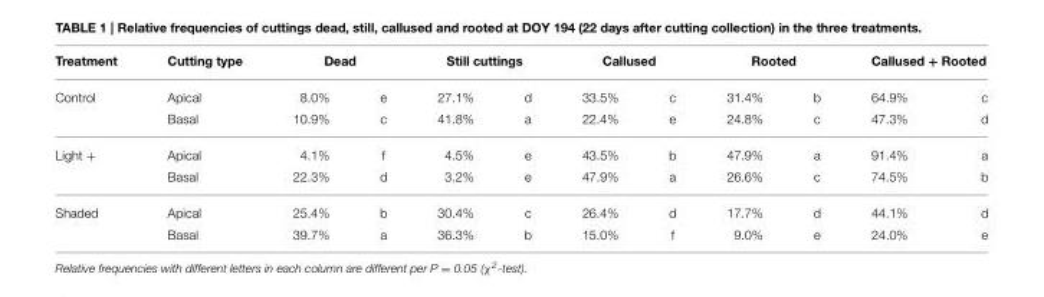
<table><thead><tr><td rowspan="2">Treatment Control</td><td rowspan="2">Cutting type Apical</td><td colspan="2">Dead</td><td colspan="2">Still cuttings</td><td colspan="2">Callused</td><td colspan="2">Rooted</td><td colspan="2">Callused + Rooted</td></tr><tr><td>8.0%</td><td>e</td><td>27.1%</td><td>d</td><td>33.5%</td><td>c</td><td>31.4%</td><td>b</td><td>64.9%</td><td>c</td></tr></thead><tbody><tr><td></td><td>Basal</td><td>10.9%</td><td>c</td><td>41.8%</td><td>a</td><td>22.4%</td><td>e</td><td>24.8%</td><td>c</td><td>47.3%</td><td>d</td></tr><tr><td rowspan="2">Light +</td><td>Apical</td><td>4.1%</td><td>f</td><td>4.5%</td><td>e</td><td>43.5%</td><td>b</td><td>47.9%</td><td>a</td><td>91.4%</td><td>a</td></tr><tr><td>Basal</td><td>22.3%</td><td>d</td><td>3.2%</td><td>e</td><td>47.9%</td><td>a</td><td>26.6%</td><td>c</td><td>74.5%</td><td>b</td></tr><tr><td rowspan="2">Shaded</td><td>Apical</td><td>25.4%</td><td>b</td><td>30.4%</td><td>c</td><td>26.4%</td><td>d</td><td>17.7%</td><td>d</td><td>44.1%</td><td>d</td></tr><tr><td>Basal</td><td>39.7%</td><td>a</td><td>36.3%</td><td>b</td><td>15.0%</td><td>f</td><td>9.0%</td><td>e</td><td>24.0%</td><td>e</td></tr></tbody></table>